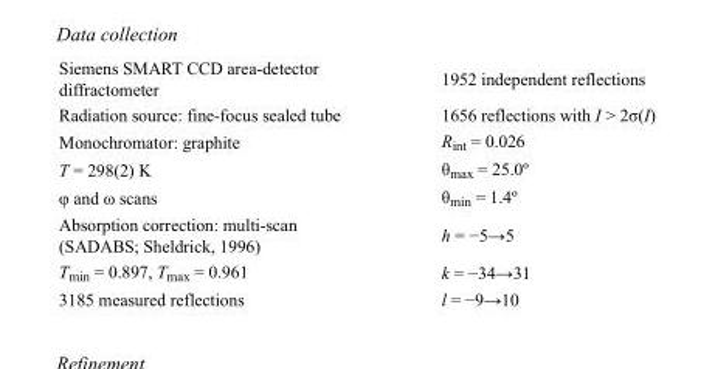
<table><tbody><tr><td>Siemens SMART CCD area-detector diffractometer</td><td>1952 independent reflections</td></tr><tr><td>Radiation source: fine-focus sealed tube</td><td>1656 reflections with I &gt; 2σ(I)</td></tr><tr><td>Monochromator: graphite</td><td>R<sub>int</sub> = 0.026</td></tr><tr><td>T = 298(2) K</td><td>θ<sub>max</sub> = 25.0º</td></tr><tr><td>φ and ω scans</td><td>θ<sub>min</sub> = 1.4º</td></tr><tr><td>Absorption correction: multi-scan (SADABS; Sheldrick, 1996)</td><td>h = −5→5</td></tr><tr><td>T<sub>min</sub> = 0.897, T<sub>max</sub> = 0.961</td><td>k = −34→31</td></tr><tr><td>3185 measured reflections</td><td>l = −9→10</td></tr></tbody></table>